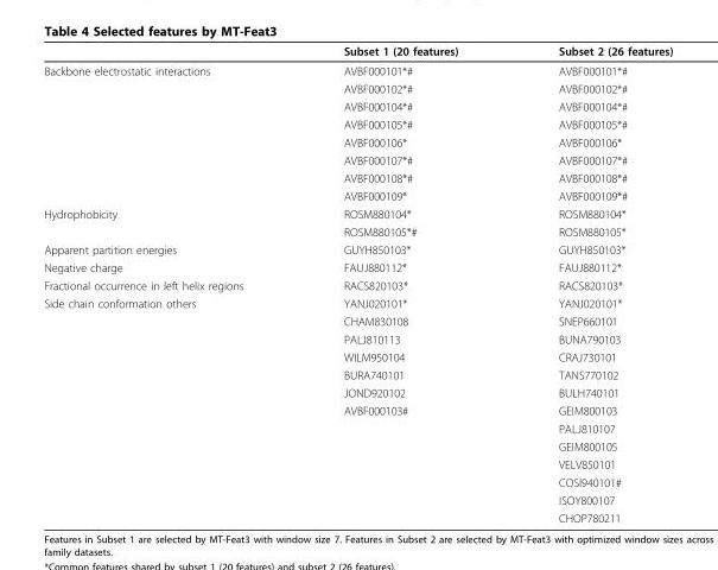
<table><thead><tr><td></td><td>Subset 1 (20 features)</td><td>Subset 2 (26 features)</td></tr></thead><tbody><tr><td rowspan="8">Backbone electrostatic interactions</td><td>AVBF000101*#</td><td>AVBF000101*#</td></tr><tr><td>AVBF000102*#</td><td>AVBF000102*#</td></tr><tr><td>AVBF000104*#</td><td>AVBF000104*#</td></tr><tr><td>AVBF000105*#</td><td>AVBF000105*#</td></tr><tr><td>AVBF000106*</td><td>AVBF000106*</td></tr><tr><td>AVBF000107*#</td><td>AVBF000107*#</td></tr><tr><td>AVBF000108*#</td><td>AVBF000108*#</td></tr><tr><td>AVBF000109*</td><td>AVBF000109*#</td></tr><tr><td rowspan="2">Hydrophobicity</td><td>ROSM880104*</td><td>ROSM880104*</td></tr><tr><td>ROSM880105*#</td><td>ROSM880105*</td></tr><tr><td>Apparent partition energies</td><td>GUYH850103*</td><td>GUYH850103*</td></tr><tr><td>Negative charge</td><td>FAUJ880112*</td><td>FAUJ880112*</td></tr><tr><td>Fractional occurrence in left helix regions</td><td>RACS820103*</td><td>RACS820103*</td></tr><tr><td rowspan="13">Side chain conformation others</td><td>YANJ020101*</td><td>YANJ020101*</td></tr><tr><td>CHAM830108</td><td>SNEP660101</td></tr><tr><td>PALJ810113</td><td>BUNA790103</td></tr><tr><td>WILM950104</td><td>CRAJ730101</td></tr><tr><td>BURA740101</td><td>TANS770102</td></tr><tr><td>JOND920102</td><td>BULH740101</td></tr><tr><td>AVBF000103#</td><td>GEIM800103</td></tr><tr><td></td><td>PALJ810107</td></tr><tr><td></td><td>GEIM800105</td></tr><tr><td></td><td>VELV850101</td></tr><tr><td></td><td>COSI940101#</td></tr><tr><td></td><td>ISOY800107</td></tr><tr><td></td><td>CHOP780211</td></tr></tbody></table>